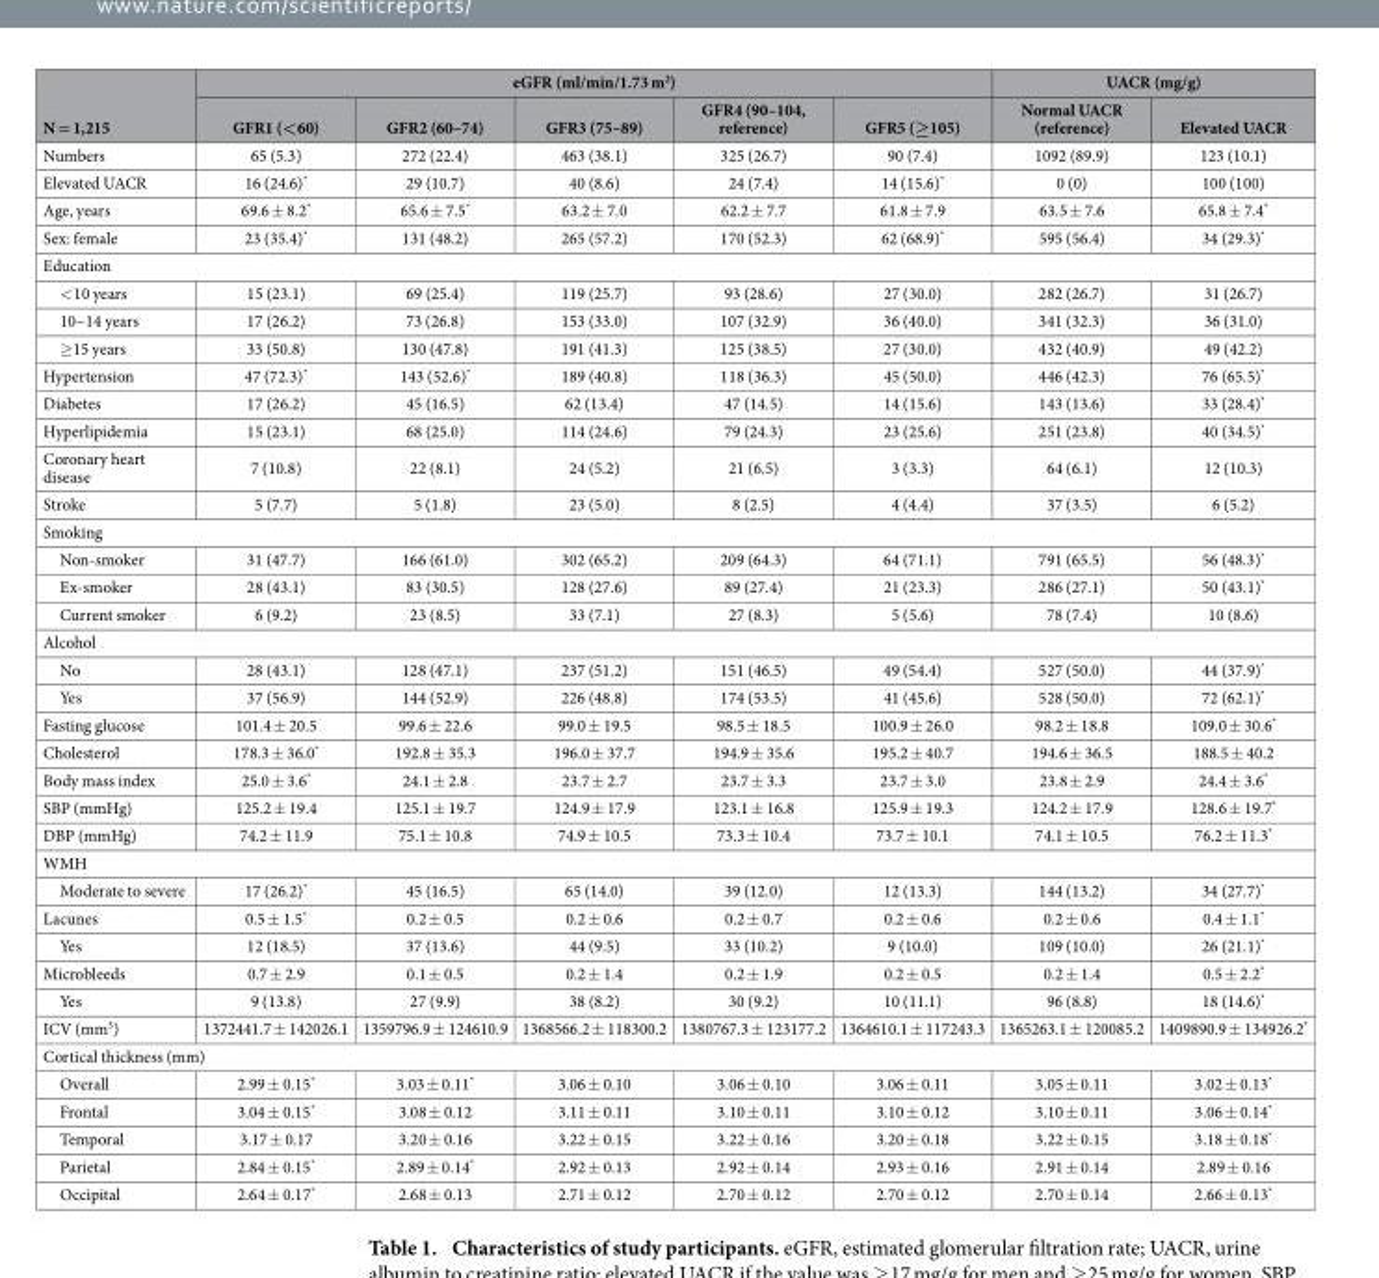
<table><thead><tr><td rowspan="2">N = 1,215</td><td colspan="5">eGFR (ml/min/1.73 m<sup>2</sup>)</td><td colspan="2">UACR (mg/g)</td></tr><tr><td>GFR1 (&lt;60)</td><td>GFR2 (60–74)</td><td>GFR3 (75–89)</td><td>GFR4 (90–104, reference)</td><td>GFR5 (≥105)</td><td>Normal UACR (reference)</td><td>Elevated UACR</td></tr></thead><tbody><tr><td>Numbers</td><td>65 (5.3)</td><td>272 (22.4)</td><td>463 (38.1)</td><td>325 (26.7)</td><td>90 (7.4)</td><td>1092 (89.9)</td><td>123 (10.1)</td></tr><tr><td>Elevated UACR</td><td>16 (24.6)*</td><td>29 (10.7)</td><td>40 (8.6)</td><td>24 (7.4)</td><td>14 (15.6)*</td><td>0 (0)</td><td>100 (100)</td></tr><tr><td>Age, years</td><td>69.6 ± 8.2*</td><td>65.6 ± 7.5*</td><td>63.2 ± 7.0</td><td>62.2 ± 7.7</td><td>61.8 ± 7.9</td><td>63.5 ± 7.6</td><td>65.8 ± 7.4*</td></tr><tr><td>Sex: female</td><td>23 (35.4)*</td><td>131 (48.2)</td><td>265 (57.2)</td><td>170 (52.3)</td><td>62 (68.9)*</td><td>595 (56.4)</td><td>34 (29.3)*</td></tr><tr><td colspan="8">Education</td></tr><tr><td>&lt; 10 years</td><td>15 (23.1)</td><td>69 (25.4)</td><td>119 (25.7)</td><td>93 (28.6)</td><td>27 (30.0)</td><td>282 (26.7)</td><td>31 (26.7)</td></tr><tr><td>10~14 years</td><td>17 (26.2)</td><td>73 (26.8)</td><td>153 (33.0)</td><td>107 (32.9)</td><td>36 (40.0)</td><td>341 (32.3)</td><td>36 (31.0)</td></tr><tr><td>≥15 years</td><td>33 (50.8)</td><td>130 (47.8)</td><td>191 (41.3)</td><td>125 (38.5)</td><td>27 (30.0)</td><td>432 (40.9)</td><td>49 (42.2)</td></tr><tr><td>Hypertension</td><td>47 (72.3)*</td><td>143 (52.6)*</td><td>189 (40.8)</td><td>118 (36.3)</td><td>45 (50.0)</td><td>446 (42.3)</td><td>76 (65.5)*</td></tr><tr><td>Diabetes</td><td>17 (26.2)</td><td>45 (16.5)</td><td>62 (13.4)</td><td>47 (14.5)</td><td>14 (15.6)</td><td>143 (13.6)</td><td>33 (28.4)*</td></tr><tr><td>Hyperlipidemia</td><td>15 (23.1)</td><td>68 (25.0)</td><td>114 (24.6)</td><td>79 (24.3)</td><td>23 (25.6)</td><td>251 (23.8)</td><td>40 (34.5)*</td></tr><tr><td>Coronary heart disease</td><td>7 (10.8)</td><td>22 (8.1)</td><td>24 (5.2)</td><td>21 (6.5)</td><td>3 (3.3)</td><td>64 (6.1)</td><td>12 (10.3)</td></tr><tr><td>Stroke</td><td>5 (7.7)</td><td>5 (1.8)</td><td>23 (5.0)</td><td>8 (2.5)</td><td>4 (4.4)</td><td>37 (3.5)</td><td>6 (5.2)</td></tr><tr><td colspan="8">Smoking</td></tr><tr><td>Non-smoker</td><td>31 (47.7)</td><td>166 (61.0)</td><td>302 (65.2)</td><td>209 (64.3)</td><td>64 (71.1)</td><td>791 (65.5)</td><td>56 (48.3)*</td></tr><tr><td>Ex-smoker</td><td>28 (43.1)</td><td>83 (30.5)</td><td>128 (27.6)</td><td>89 (27.4)</td><td>21 (23.3)</td><td>286 (27.1)</td><td>50 (43.1)*</td></tr><tr><td>Current smoker</td><td>6 (9.2)</td><td>23 (8.5)</td><td>33 (7.1)</td><td>27 (8.3)</td><td>5 (5.6)</td><td>78 (7.4)</td><td>10 (8.6)</td></tr><tr><td colspan="8">Alcohol</td></tr><tr><td>No</td><td>28 (43.1)</td><td>128 (47.1)</td><td>237 (51.2)</td><td>151 (46.5)</td><td>49 (54.4)</td><td>527 (50.0)</td><td>44 (37.9)*</td></tr><tr><td>Yes</td><td>37 (56.9)</td><td>144 (52.9)</td><td>226 (48.8)</td><td>174 (53.5)</td><td>41 (45.6)</td><td>528 (50.0)</td><td>72 (62.1)*</td></tr><tr><td>Fasting glucose</td><td>101.4 ± 20.5</td><td>99.6 ± 22.6</td><td>99.0 ± 19.5</td><td>98.5 ± 18.5</td><td>100.9 ± 26.0</td><td>98.2 ± 18.8</td><td>109.0 ± 30.6*</td></tr><tr><td>Cholesterol</td><td>178.3 ± 36.0*</td><td>192.8 ± 35.3</td><td>196.0 ± 37.7</td><td>194.9 ± 35.6</td><td>195.2 ± 40.7</td><td>194.6 ± 36.5</td><td>188.5 ± 40.2</td></tr><tr><td>Body mass index</td><td>25.0 ± 3.6*</td><td>24.1 ± 2.8</td><td>23.7 ± 2.7</td><td>23.7 ± 3.3</td><td>23.7 ± 3.0</td><td>23.8 ± 2.9</td><td>24.4 ± 3.6*</td></tr><tr><td>SBP (mmHg)</td><td>125.2 ± 19.4</td><td>125.1 ± 19.7</td><td>124.9 ± 17.9</td><td>123.1 ± 16.8</td><td>125.9 ± 19.3</td><td>124.2 ± 17.9</td><td>128.6 ± 19.7*</td></tr><tr><td>DBP (mmHg)</td><td>74.2 ± 11.9</td><td>75.1 ± 10.8</td><td>74.9 ± 10.5</td><td>73.3 ± 10.4</td><td>73.7 ± 10.1</td><td>74.1 ± 10.5</td><td>76.2 ± 11.3*</td></tr><tr><td colspan="8">WMH</td></tr><tr><td>Moderate to severe</td><td>17 (26.2)*</td><td>45 (16.5)</td><td>65 (14.0)</td><td>39 (12.0)</td><td>12 (13.3)</td><td>144 (13.2)</td><td>34 (27.7)*</td></tr><tr><td>Lacunes</td><td>0.5 ± 1.5*</td><td>0.2 ± 0.5</td><td>0.2 ± 0.6</td><td>0.2 ± 0.7</td><td>0.2 ± 0.6</td><td>0.2 ± 0.6</td><td>0.4 ± 1.1*</td></tr><tr><td>Yes</td><td>12 (18.5)</td><td>37 (13.6)</td><td>44 (9.5)</td><td>33 (10.2)</td><td>9 (10.0)</td><td>109 (10.0)</td><td>26 (21.1)*</td></tr><tr><td>Microbleeds</td><td>0.7 ± 2.9</td><td>0.1 ± 0.5</td><td>0.2 ± 1.4</td><td>0.2 ± 1.9</td><td>0.2 ± 0.5</td><td>0.2 ± 1.4</td><td>0.5 ± 2.2*</td></tr><tr><td>Yes</td><td>9 (13.8)</td><td>27 (9.9)</td><td>38 (8.2)</td><td>30 (9.2)</td><td>10 (11.1)</td><td>96 (8.8)</td><td>18 (14.6)*</td></tr><tr><td>ICV (mm<sup>3</sup>)</td><td>1372441.7 ± 142026.1</td><td>1359796.9 ± 124610.9</td><td>1368566.2 ± 118300.2</td><td>1380767.3 ± 123177.2</td><td>1364610.1 ± 117243.3</td><td>1365263.1 ± 120085.2</td><td>1409890.9 ± 134926.2*</td></tr><tr><td colspan="8">Cortical thickness (mm)</td></tr><tr><td>Overall</td><td>2.99 ± 0.15*</td><td>3.03 ± 0.11*</td><td>3.06 ± 0.10</td><td>3.06 ± 0.10</td><td>3.06 ± 0.11</td><td>3.05 ± 0.11</td><td>3.02 ± 0.13*</td></tr><tr><td>Frontal</td><td>3.04 ± 0.15*</td><td>3.08 ± 0.12</td><td>3.11 ± 0.11</td><td>3.10 ± 0.11</td><td>3.10 ± 0.12</td><td>3.10 ± 0.11</td><td>3.06 ± 0.14*</td></tr><tr><td>Temporal</td><td>3.17 ± 0.17</td><td>3.20 ± 0.16</td><td>3.22 ± 0.15</td><td>3.22 ± 0.16</td><td>3.20 ± 0.18</td><td>3.22 ± 0.15</td><td>3.18 ± 0.18*</td></tr><tr><td>Parietal</td><td>2.84 ± 0.15*</td><td>2.89 ± 0.14*</td><td>2.92 ± 0.13</td><td>2.92 ± 0.14</td><td>2.93 ± 0.16</td><td>2.91 ± 0.14</td><td>2.89 ± 0.16</td></tr><tr><td>Occipital</td><td>2.64 ± 0.17*</td><td>2.68 ± 0.13</td><td>2.71 ± 0.12</td><td>2.70 ± 0.12</td><td>2.70 ± 0.12</td><td>2.70 ± 0.14</td><td>2.66 ± 0.13*</td></tr></tbody></table>